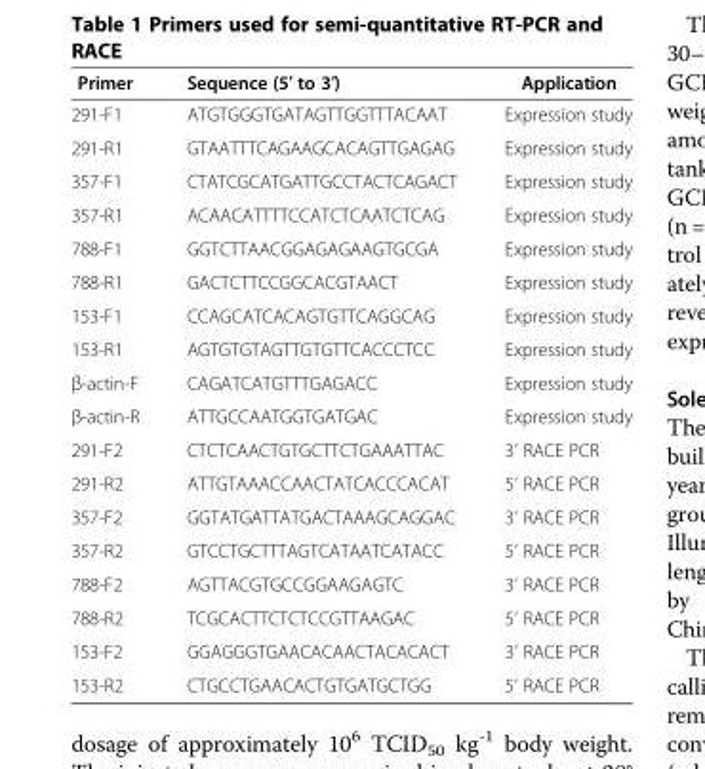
<table><thead><tr><td>Primer</td><td>Sequence (5′ to 3′)</td><td>Application</td></tr></thead><tbody><tr><td>291-F1</td><td>ATGTGGGTGATAGTTGGTTTACAAT</td><td>Expression study</td></tr><tr><td>291-R1</td><td>GTAATTTCAGAAGCACAGTTGAGAG</td><td>Expression study</td></tr><tr><td>357-F1</td><td>CTATCGCATGATTGCCTACTCAGACT</td><td>Expression study</td></tr><tr><td>357-R1</td><td>ACAACATTTTCCATCTCAATCTCAG</td><td>Expression study</td></tr><tr><td>788-F1</td><td>GGTCTTAACGGAGAGAAGTGCGA</td><td>Expression study</td></tr><tr><td>788-R1</td><td>GACTCTTCCGGCACGTAACT</td><td>Expression study</td></tr><tr><td>153-F1</td><td>CCAGCATCACAGTGTTCAGGCAG</td><td>Expression study</td></tr><tr><td>153-R1</td><td>AGTGTGTAGTTGTGTTCACCCTCC</td><td>Expression study</td></tr><tr><td>β-actin-F</td><td>CAGATCATGTTTGAGACC</td><td>Expression study</td></tr><tr><td>β-actin-R</td><td>ATTGCCAATGGTGATGAC</td><td>Expression study</td></tr><tr><td>291-F2</td><td>CTCTCAACTGTGCTTCTGAAATTAC</td><td>3’ RACE PCR</td></tr><tr><td>291-R2</td><td>ATTGTAAACCAACTATCACCCACAT</td><td>5’ RACE PCR</td></tr><tr><td>357-F2</td><td>GGTATGATTATGACTAAAGCAGGAC</td><td>3’ RACE PCR</td></tr><tr><td>357-R2</td><td>GTCCTGCTTTAGTCATAATCATACC</td><td>5’ RACE PCR</td></tr><tr><td>788-F2</td><td>AGTTACGTGCCGGAAGAGTC</td><td>3’ RACE PCR</td></tr><tr><td>788-R2</td><td>TCGCACTTCTCTCCGTTAAGAC</td><td>5’ RACE PCR</td></tr><tr><td>153-F2</td><td>GGAGGGTGAACACAACTACACACT</td><td>3’ RACE PCR</td></tr><tr><td>153-R2</td><td>CTGCCTGAACACTGTGATGCTGG</td><td>5’ RACE PCR</td></tr></tbody></table>